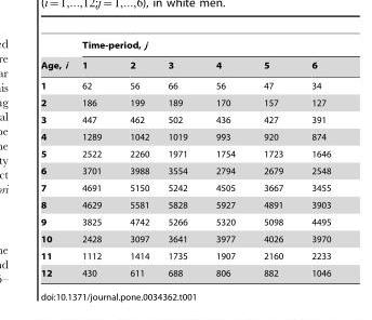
<table><thead><tr><td rowspan="2">Age, i</td><td colspan="6">Time-period, j</td></tr><tr><td>1</td><td>2</td><td>3</td><td>4</td><td>5</td><td>6</td></tr></thead><tbody><tr><td>1</td><td>62</td><td>56</td><td>66</td><td>56</td><td>47</td><td>34</td></tr><tr><td>2</td><td>186</td><td>199</td><td>189</td><td>170</td><td>157</td><td>127</td></tr><tr><td>3</td><td>447</td><td>462</td><td>502</td><td>436</td><td>427</td><td>391</td></tr><tr><td>4</td><td>1289</td><td>1042</td><td>1019</td><td>993</td><td>920</td><td>874</td></tr><tr><td>5</td><td>2522</td><td>2260</td><td>1971</td><td>1754</td><td>1723</td><td>1646</td></tr><tr><td>6</td><td>3701</td><td>3988</td><td>3554</td><td>2794</td><td>2679</td><td>2548</td></tr><tr><td>7</td><td>4691</td><td>5150</td><td>5242</td><td>4505</td><td>3667</td><td>3455</td></tr><tr><td>8</td><td>4629</td><td>5581</td><td>5828</td><td>5927</td><td>4891</td><td>3903</td></tr><tr><td>9</td><td>3825</td><td>4742</td><td>5266</td><td>5320</td><td>5098</td><td>4495</td></tr><tr><td>10</td><td>2428</td><td>3097</td><td>3641</td><td>3977</td><td>4026</td><td>3970</td></tr><tr><td>11</td><td>1112</td><td>1414</td><td>1735</td><td>1907</td><td>2160</td><td>2233</td></tr><tr><td>12</td><td>430</td><td>611</td><td>688</td><td>806</td><td>882</td><td>1046</td></tr></tbody></table>